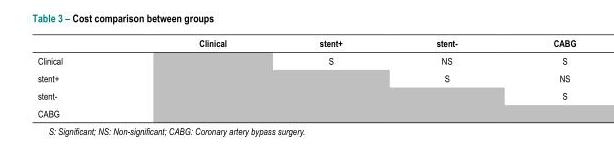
<table><thead><tr><td></td><td>Clinical</td><td>stent+</td><td>stent-</td><td>CABG</td></tr></thead><tbody><tr><td>Clinical</td><td></td><td>S</td><td>NS</td><td>S</td></tr><tr><td>stent+</td><td></td><td></td><td>S</td><td>NS</td></tr><tr><td>stent-</td><td></td><td></td><td></td><td>S</td></tr><tr><td>CABG</td><td></td><td></td><td></td><td></td></tr></tbody></table>